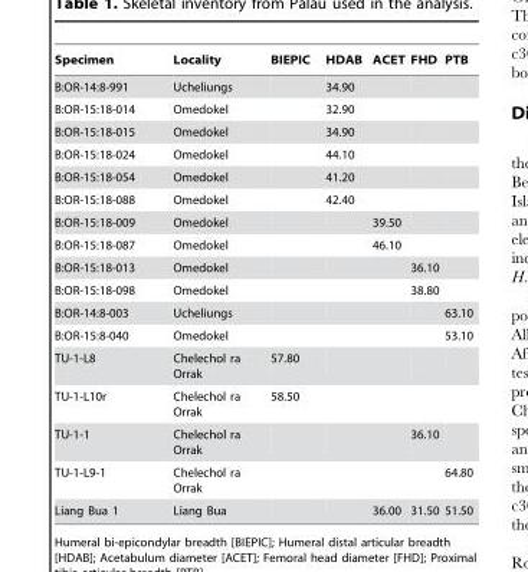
<table><thead><tr><td>Specimen</td><td>Locality</td><td>BIEPIC</td><td>HDAB</td><td>ACET</td><td>FHD</td><td>PTB</td></tr></thead><tbody><tr><td>B:OR-14:8-991</td><td>Ucheliungs</td><td></td><td>34.90</td><td></td><td></td><td></td></tr><tr><td>B:OR-15:18-014</td><td>Omedokel</td><td></td><td>32.90</td><td></td><td></td><td></td></tr><tr><td>B:OR-15:18-015</td><td>Omedokel</td><td></td><td>34.90</td><td></td><td></td><td></td></tr><tr><td>B:OR-15:18-024</td><td>Omedokel</td><td></td><td>44.10</td><td></td><td></td><td></td></tr><tr><td>B:OR-15:18-054</td><td>Omedokel</td><td></td><td>41.20</td><td></td><td></td><td></td></tr><tr><td>B:OR-15:18-088</td><td>Omedokel</td><td></td><td>42.40</td><td></td><td></td><td></td></tr><tr><td>B:OR-15:18-009</td><td>Omedokel</td><td></td><td></td><td>39.50</td><td></td><td></td></tr><tr><td>B:OR-15:18-087</td><td>Omedokel</td><td></td><td></td><td>46.10</td><td></td><td></td></tr><tr><td>B:OR-15:18-013</td><td>Omedokel</td><td></td><td></td><td></td><td>36.10</td><td></td></tr><tr><td>B:OR-15:18-098</td><td>Omedokel</td><td></td><td></td><td></td><td>38.80</td><td></td></tr><tr><td>B:OR-14:8-003</td><td>Ucheliungs</td><td></td><td></td><td></td><td></td><td>63.10</td></tr><tr><td>B:OR-15:8-040</td><td>Omedokel</td><td></td><td></td><td></td><td></td><td>53.10</td></tr><tr><td>TU-1-L8</td><td>Chelechol ra Orrak</td><td>57.80</td><td></td><td></td><td></td><td></td></tr><tr><td>TU-1-L10r</td><td>Chelechol ra Orrak</td><td>58.50</td><td></td><td></td><td></td><td></td></tr><tr><td>TU-1-1</td><td>Chelechol ra Orrak</td><td></td><td></td><td></td><td>36.10</td><td></td></tr><tr><td>TU-1-L9-1</td><td>Chelechol ra Orrak</td><td></td><td></td><td></td><td></td><td>64.80</td></tr><tr><td>Liang Bua 1</td><td>Liang Bua</td><td></td><td></td><td>36.00</td><td>31.50</td><td>51.50</td></tr></tbody></table>